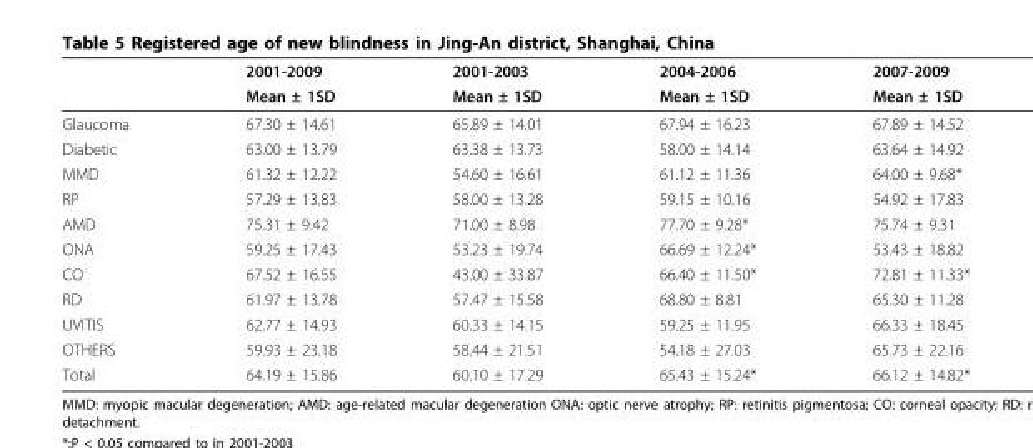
<table><thead><tr><td rowspan="2"></td><td rowspan="2">2001-2009 Mean ± 1SD</td><td rowspan="2">2001-2003 Mean ± 1SD</td><td rowspan="2">2004-2006 Mean ± 1SD</td><td rowspan="2">2007-2009 Mean ± 1SD</td></tr><tr></tr></thead><tbody><tr><td>Glaucoma</td><td>67.30 ± 14.61</td><td>65.89 ± 14.01</td><td>67.94 ± 16.23</td><td>67.89 ± 14.52</td></tr><tr><td>Diabetic</td><td>63.00 ± 13.79</td><td>63.38 ± 13.73</td><td>58.00 ± 14.14</td><td>63.64 ± 14.92</td></tr><tr><td>MMD</td><td>61.32 ± 12.22</td><td>54.60 ± 16.61</td><td>61.12 ± 11.36</td><td>64.00 ± 9.68*</td></tr><tr><td>RP</td><td>57.29 ± 13.83</td><td>58.00 ± 13.28</td><td>59.15 ± 10.16</td><td>54.92 ± 17.83</td></tr><tr><td>AMD</td><td>75.31 ± 9.42</td><td>71.00 ± 8.98</td><td>77.70 ± 9.28*</td><td>75.74 ± 9.31</td></tr><tr><td>ONA</td><td>59.25 ± 17.43</td><td>53.23 ± 19.74</td><td>66.69 ± 12.24*</td><td>53.43 ± 18.82</td></tr><tr><td>CO</td><td>67.52 ± 16.55</td><td>43.00 ± 33.87</td><td>66.40 ± 11.50*</td><td>72.81 ± 11.33*</td></tr><tr><td>RD</td><td>61.97 ± 13.78</td><td>57.47 ± 15.58</td><td>68.80 ± 8.81</td><td>65.30 ± 11.28</td></tr><tr><td>UVITIS</td><td>62.77 ± 14.93</td><td>60.33 ± 14.15</td><td>59.25 ± 11.95</td><td>66.33 ± 18.45</td></tr><tr><td>OTHERS</td><td>59.93 ± 23.18</td><td>58.44 ± 21.51</td><td>54.18 ± 27.03</td><td>65.73 ± 22.16</td></tr><tr><td>Total</td><td>64.19 ± 15.86</td><td>60.10 ± 17.29</td><td>65.43 ± 15.24*</td><td>66.12 ± 14.82*</td></tr></tbody></table>